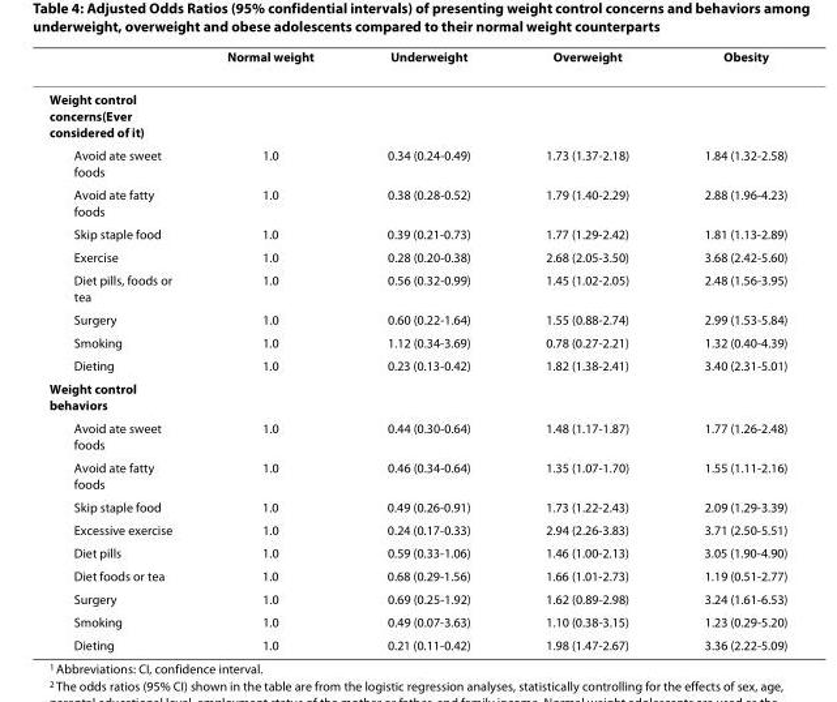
<table><thead><tr><td></td><td>Normal weight</td><td>Underweight</td><td>Overweight</td><td>Obesity</td></tr></thead><tbody><tr><td colspan="5">Weight control concerns(Ever considered of it)</td></tr><tr><td>Avoid ate sweet foods</td><td>1.0</td><td>0.34 (0.24-0.49)</td><td>1.73 (1.37-2.18)</td><td>1.84 (1.32-2.58)</td></tr><tr><td>Avoid ate fatty foods</td><td>1.0</td><td>0.38 (0.28-0.52)</td><td>1.79 (1.40-2.29)</td><td>2.88 (1.96-4.23)</td></tr><tr><td>Skip staple food</td><td>1.0</td><td>0.39 (0.21-0.73)</td><td>1.77 (1.29-2.42)</td><td>1.81 (1.13-2.89)</td></tr><tr><td>Exercise</td><td>1.0</td><td>0.28 (0.20-0.38)</td><td>2.68 (2.05-3.50)</td><td>3.68 (2.42-5.60)</td></tr><tr><td>Diet pills, foods or tea</td><td>1.0</td><td>0.56 (0.32-0.99)</td><td>1.45 (1.02-2.05)</td><td>2.48 (1.56-3.95)</td></tr><tr><td>Surgery</td><td>1.0</td><td>0.60 (0.22-1.64)</td><td>1.55 (0.88-2.74)</td><td>2.99 (1.53-5.84)</td></tr><tr><td>Smoking</td><td>1.0</td><td>1.12 (0.34-3.69)</td><td>0.78 (0.27-2.21)</td><td>1.32 (0.40-4.39)</td></tr><tr><td>Dieting</td><td>1.0</td><td>0.23 (0.13-0.42)</td><td>1.82 (1.38-2.41)</td><td>3.40 (2.31-5.01)</td></tr><tr><td colspan="5">Weight control behaviors</td></tr><tr><td>Avoid ate sweet foods</td><td>1.0</td><td>0.44 (0.30-0.64)</td><td>1.48 (1.17-1.87)</td><td>1.77 (1.26-2.48)</td></tr><tr><td>Avoid ate fatty foods</td><td>1.0</td><td>0.46 (0.34-0.64)</td><td>1.35 (1.07-1.70)</td><td>1.55 (1.11-2.16)</td></tr><tr><td>Skip staple food</td><td>1.0</td><td>0.49 (0.26-0.91)</td><td>1.73 (1.22-2.43)</td><td>2.09 (1.29-3.39)</td></tr><tr><td>Excessive exercise</td><td>1.0</td><td>0.24 (0.17-0.33)</td><td>2.94 (2.26-3.83)</td><td>3.71 (2.50-5.51)</td></tr><tr><td>Diet pills</td><td>1.0</td><td>0.59 (0.33-1.06)</td><td>1.46 (1.00-2.13)</td><td>3.05 (1.90-4.90)</td></tr><tr><td>Diet foods or tea</td><td>1.0</td><td>0.68 (0.29-1.56)</td><td>1.66 (1.01-2.73)</td><td>1.19 (0.51-2.77)</td></tr><tr><td>Surgery</td><td>1.0</td><td>0.69 (0.25-1.92)</td><td>1.62 (0.89-2.98)</td><td>3.24 (1.61-6.53)</td></tr><tr><td>Smoking</td><td>1.0</td><td>0.49 (0.07-3.63)</td><td>1.10 (0.38-3.15)</td><td>1.23 (0.29-5.20)</td></tr><tr><td>Dieting</td><td>1.0</td><td>0.21 (0.11-0.42)</td><td>1.98 (1.47-2.67)</td><td>3.36 (2.22-5.09)</td></tr></tbody></table>